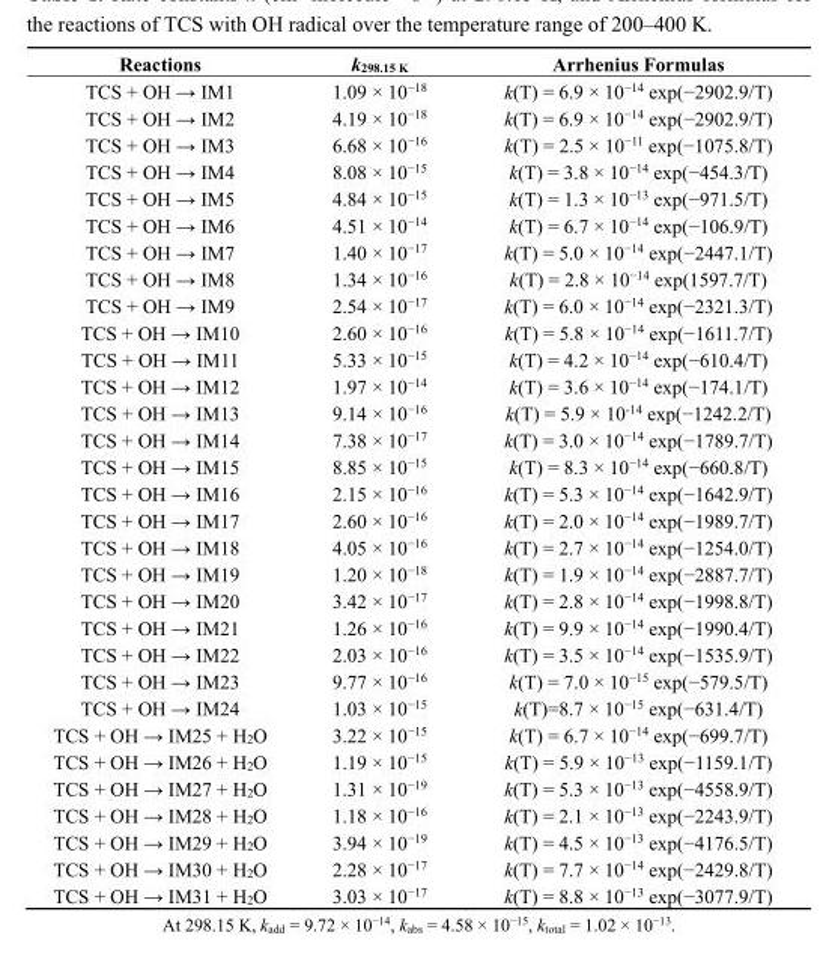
<table><thead><tr><td>Reactions</td><td>k<sub>298.15 K</sub></td><td>Arrhenius Formulas</td></tr></thead><tbody><tr><td>TCS + OH → IM1</td><td>1.09 × 10<sup>−18</sup></td><td>k(T) = 6.9 × 10<sup>−14</sup> exp(−2902.9/T)</td></tr><tr><td>TCS + OH → IM2</td><td>4.19 × 10<sup>−18</sup></td><td>k(T) = 6.9 × 10<sup>−14</sup> exp(−2902.9/T)</td></tr><tr><td>TCS + OH → IM3</td><td>6.68 × 10<sup>−16</sup></td><td>k(T) = 2.5 × 10<sup>−11</sup> exp(−1075.8/T)</td></tr><tr><td>TCS + OH → IM4</td><td>8.08 × 10<sup>−15</sup></td><td>k(T) = 3.8 × 10<sup>−14</sup> exp(−454.3/T)</td></tr><tr><td>TCS + OH → IM5</td><td>4.84 × 10<sup>−15</sup></td><td>k(T) = 1.3 × 10<sup>−13</sup> exp(−971.5/T)</td></tr><tr><td>TCS + OH → IM6</td><td>4.51 × 10<sup>−14</sup></td><td>k(T) = 6.7 × 10<sup>−14</sup> exp(−106.9/T)</td></tr><tr><td>TCS + OH → IM7</td><td>1.40 × 10<sup>−17</sup></td><td>k(T) = 5.0 × 10<sup>−14</sup> exp(−2447.1/T)</td></tr><tr><td>TCS + OH → IM8</td><td>1.34 × 10<sup>−16</sup></td><td>k(T) = 2.8 × 10<sup>−14</sup> exp(1597.7/T)</td></tr><tr><td>TCS + OH → IM9</td><td>2.54 × 10<sup>−17</sup></td><td>k(T) = 6.0 × 10<sup>−14</sup> exp(−2321.3/T)</td></tr><tr><td>TCS + OH → IM10</td><td>2.60 × 10<sup>−16</sup></td><td>k(T) = 5.8 × 10<sup>−14</sup> exp(−1611.7/T)</td></tr><tr><td>TCS + OH → IM11</td><td>5.33 × 10<sup>−15</sup></td><td>k(T) = 4.2 × 10<sup>−14</sup> exp(−610.4/T)</td></tr><tr><td>TCS + OH → IM12</td><td>1.97 × 10<sup>−14</sup></td><td>k(T) = 3.6 × 10<sup>−14</sup> exp(−174.1/T)</td></tr><tr><td>TCS + OH → IM13</td><td>9.14 × 10<sup>−16</sup></td><td>k(T) = 5.9 × 10<sup>-14</sup> exp(−1242.2/T)</td></tr><tr><td>TCS + OH → IM14</td><td>7.38 × 10<sup>−17</sup></td><td>k(T) = 3.0 × 10<sup>−14</sup> exp(−1789.7/T)</td></tr><tr><td>TCS + OH → IM15</td><td>8.85 × 10<sup>−15</sup></td><td>k(T) = 8.3 × 10<sup>−14</sup> exp(−660.8/T)</td></tr><tr><td>TCS + OH → IM16</td><td>2.15 × 10<sup>−16</sup></td><td>k(T) = 5.3 × 10<sup>−14</sup> exp(−1642.9/T)</td></tr><tr><td>TCS + OH → IM17</td><td>2.60 × 10<sup>−16</sup></td><td>k(T) = 2.0 × 10<sup>−14</sup> exp(−1989.7/T)</td></tr><tr><td>TCS + OH → IM18</td><td>4.05 × 10<sup>−16</sup></td><td>k(T) = 2.7 × 10<sup>−14</sup> exp(−1254.0/T)</td></tr><tr><td>TCS + OH → IM19</td><td>1.20 × 10<sup>−18</sup></td><td>k(T) = 1.9 × 10<sup>−14</sup> exp(−2887.7/T)</td></tr><tr><td>TCS + OH → IM20</td><td>3.42 × 10<sup>−17</sup></td><td>k(T) = 2.8 × 10<sup>−14</sup> exp(−1998.8/T)</td></tr><tr><td>TCS + OH → IM21</td><td>1.26 × 10<sup>−16</sup></td><td>k(T) = 9.9 × 10<sup>−14</sup> exp(−1990.4/T)</td></tr><tr><td>TCS + OH → IM22</td><td>2.03 × 10<sup>−16</sup></td><td>k(T) = 3.5 × 10<sup>−14</sup> exp(−1535.9/T)</td></tr><tr><td>TCS + OH → IM23</td><td>9.77 × 10<sup>−16</sup></td><td>k(T) = 7.0 × 10<sup>−15</sup> exp(−579.5/T)</td></tr><tr><td>TCS + OH → IM24</td><td>1.03 × 10<sup>−15</sup></td><td>k(T)=8.7 × 10<sup>−15</sup> exp(−631.4/T)</td></tr><tr><td>TCS + OH → IM25 + H<sub>2</sub>O</td><td>3.22 × 10<sup>−15</sup></td><td>k(T) = 6.7 × 10<sup>−14</sup> exp(−699.7/T)</td></tr><tr><td>TCS + OH → IM26 + H<sub>2</sub>O</td><td>1.19 × 10<sup>−15</sup></td><td>k(T) = 5.9 × 10<sup>−13</sup> exp(−1159.1/T)</td></tr><tr><td>TCS + OH → IM27 + H<sub>2</sub>O</td><td>1.31 × 10<sup>−19</sup></td><td>k(T) = 5.3 × 10<sup>−13</sup> exp(−4558.9/T)</td></tr><tr><td>TCS + OH → IM28 + H<sub>2</sub>O</td><td>1.18 × 10<sup>−16</sup></td><td>k(T) = 2.1 × 10<sup>−13</sup> exp(−2243.9/T)</td></tr><tr><td>TCS + OH → IM29 + H<sub>2</sub>O</td><td>3.94 × 10<sup>−19</sup></td><td>k(T) = 4.5 × 10<sup>−13</sup> exp(−4176.5/T)</td></tr><tr><td>TCS + OH → IM30 + H<sub>2</sub>O</td><td>2.28 × 10<sup>−17</sup></td><td>k(T) = 7.7 × 10<sup>−14</sup> exp(−2429.8/T)</td></tr><tr><td>TCS + OH → IM31 + H<sub>2</sub>O</td><td>3.03 × 10<sup>−17</sup></td><td>k(T) = 8.8 × 10<sup>−13</sup> exp(−3077.9/T)</td></tr></tbody></table>